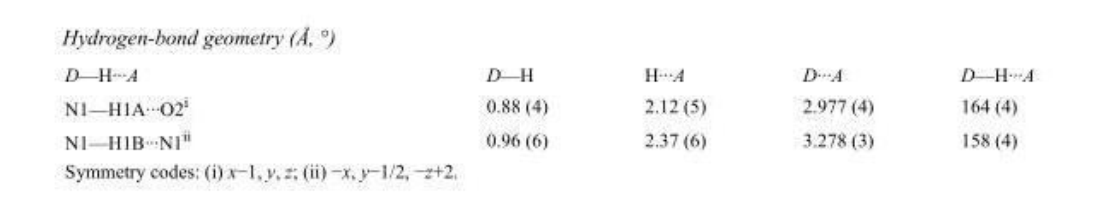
<table><tbody><tr><td>D—H···A</td><td>D—H</td><td>H···A</td><td>D···A</td><td>D—H···A</td></tr><tr><td>N1—H1A···O2<sup>i</sup></td><td>0.88 (4)</td><td>2.12 (5)</td><td>2.977 (4)</td><td>164 (4)</td></tr><tr><td>N1—H1B···N1<sup>ii</sup></td><td>0.96 (6)</td><td>2.37 (6)</td><td>3.278 (3)</td><td>158 (4)</td></tr></tbody></table>